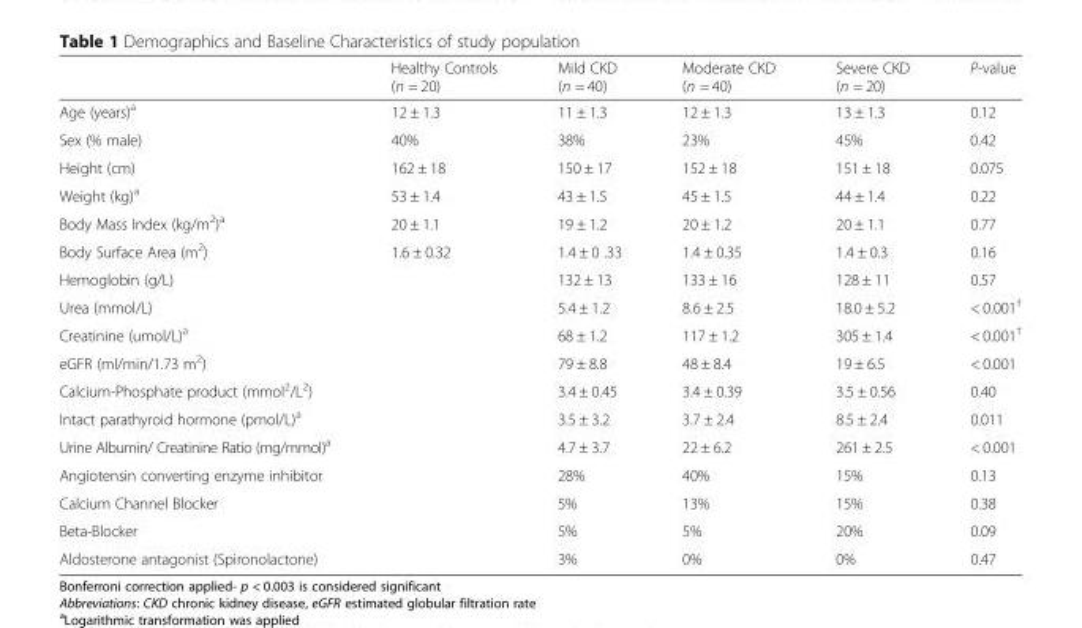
<table><thead><tr><td></td><td>Healthy Controls (n = 20)</td><td>Mild CKD (n = 40)</td><td>Moderate CKD (n = 40)</td><td>Severe CKD (n = 20)</td><td>P-value</td></tr></thead><tbody><tr><td>Age (years)<sup>a</sup></td><td>12 ± 1.3</td><td>11 ± 1.3</td><td>12 ± 1.3</td><td>13 ± 1.3</td><td>0.12</td></tr><tr><td>Sex (% male)</td><td>40%</td><td>38%</td><td>23%</td><td>45%</td><td>0.42</td></tr><tr><td>Height (cm)</td><td>162 ± 18</td><td>150 ± 17</td><td>152 ± 18</td><td>151 ± 18</td><td>0.075</td></tr><tr><td>Weight (kg)<sup>a</sup></td><td>53 ± 1.4</td><td>43 ± 1.5</td><td>45 ± 1.5</td><td>44 ± 1.4</td><td>0.22</td></tr><tr><td>Body Mass Index (kg/m<sup>2</sup>)<sup>a</sup></td><td>20 ± 1.1</td><td>19 ± 1.2</td><td>20 ± 1.2</td><td>20 ± 1.1</td><td>0.77</td></tr><tr><td>Body Surface Area (m<sup>2</sup>)</td><td>1.6 ± 0.32</td><td>1.4 ± 0 .33</td><td>1.4 ± 0.35</td><td>1.4 ± 0.3</td><td>0.16</td></tr><tr><td>Hemoglobin (g/L)</td><td></td><td>132 ± 13</td><td>133 ± 16</td><td>128 ± 11</td><td>0.57</td></tr><tr><td>Urea (mmol/L)</td><td></td><td>5.4 ± 1.2</td><td>8.6 ± 2.5</td><td>18.0 ± 5.2</td><td>&lt; 0.001<sup>†</sup></td></tr><tr><td>Creatinine (umol/L)<sup>a</sup></td><td></td><td>68 ± 1.2</td><td>117 ± 1.2</td><td>305 ± 1.4</td><td>&lt; 0.001<sup>†</sup></td></tr><tr><td>eGFR (ml/min/1.73 m<sup>2</sup>)</td><td></td><td>79 ± 8.8</td><td>48 ± 8.4</td><td>19 ± 6.5</td><td>&lt; 0.001</td></tr><tr><td>Calcium-Phosphate product (mmol<sup>2</sup>/L<sup>2</sup>)</td><td></td><td>3.4 ± 0.45</td><td>3.4 ± 0.39</td><td>3.5 ± 0.56</td><td>0.40</td></tr><tr><td>Intact parathyroid hormone (pmol/L)<sup>a</sup></td><td></td><td>3.5 ± 3.2</td><td>3.7 ± 2.4</td><td>8.5 ± 2.4</td><td>0.011</td></tr><tr><td>Urine Albumin/ Creatinine Ratio (mg/mmol)<sup>a</sup></td><td></td><td>4.7 ± 3.7</td><td>22 ± 6.2</td><td>261 ± 2.5</td><td>&lt; 0.001</td></tr><tr><td>Angiotensin converting enzyme inhibitor</td><td></td><td>28%</td><td>40%</td><td>15%</td><td>0.13</td></tr><tr><td>Calcium Channel Blocker</td><td></td><td>5%</td><td>13%</td><td>15%</td><td>0.38</td></tr><tr><td>Beta-Blocker</td><td></td><td>5%</td><td>5%</td><td>20%</td><td>0.09</td></tr><tr><td>Aldosterone antagonist (Spironolactone)</td><td></td><td>3%</td><td>0%</td><td>0%</td><td>0.47</td></tr></tbody></table>